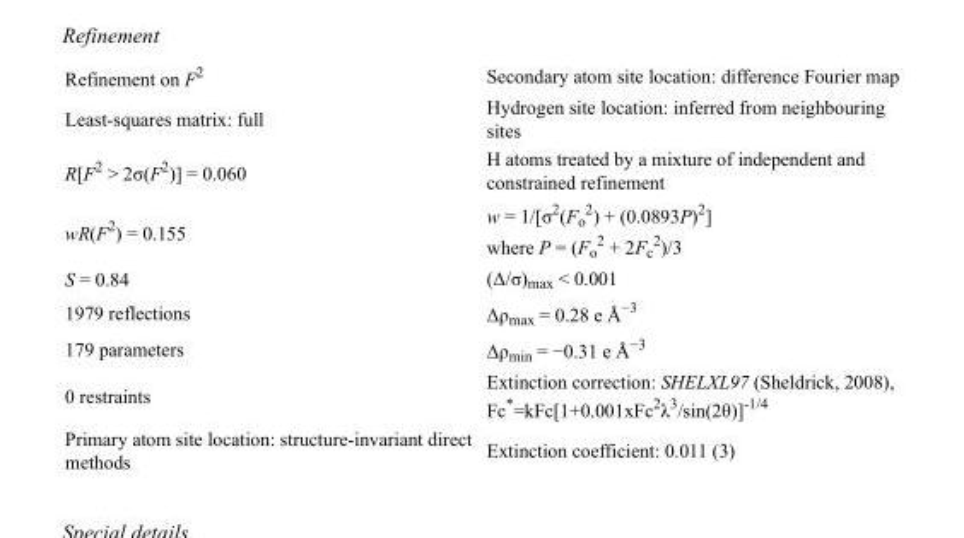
<table><tbody><tr><td>Refinement on F<sup>2</sup></td><td>Secondary atom site location: difference Fourier map</td></tr><tr><td>Least-squares matrix: full</td><td>Hydrogen site location: inferred from neighbouring sites</td></tr><tr><td>R[F<sup>2</sup> &gt; 2σ(F<sup>2</sup>)] = 0.060</td><td>H atoms treated by a mixture of independent and constrained refinement</td></tr><tr><td>wR(F<sup>2</sup>) = 0.155</td><td>w = 1/[σ<sup>2</sup>(F<sub>o</sub> <sup>2</sup>) + (0.0893P)<sup>2</sup>] where P = (F<sub>o</sub> <sup>2</sup> + 2F<sub>c</sub> <sup>2</sup>)/3</td></tr><tr><td>S = 0.84</td><td>(Δ/σ)<sub>max</sub> &lt; 0.001</td></tr><tr><td>1979 reflections</td><td>Δρ<sub>max</sub> = 0.28 e Å<sup>−3</sup></td></tr><tr><td>179 parameters</td><td>Δρ<sub>min</sub> = −0.31 e Å<sup>−3</sup></td></tr><tr><td>0 restraints</td><td>Extinction correction: SHELXL97 (Sheldrick, 2008), Fc*=kFc[1+0.001xFc<sup>2</sup>λ<sup>3</sup>/sin(2θ)]<sup>-1/4</sup></td></tr><tr><td>Primary atom site location: structure-invariant direct methods</td><td>Extinction coefficient: 0.011 (3)</td></tr></tbody></table>